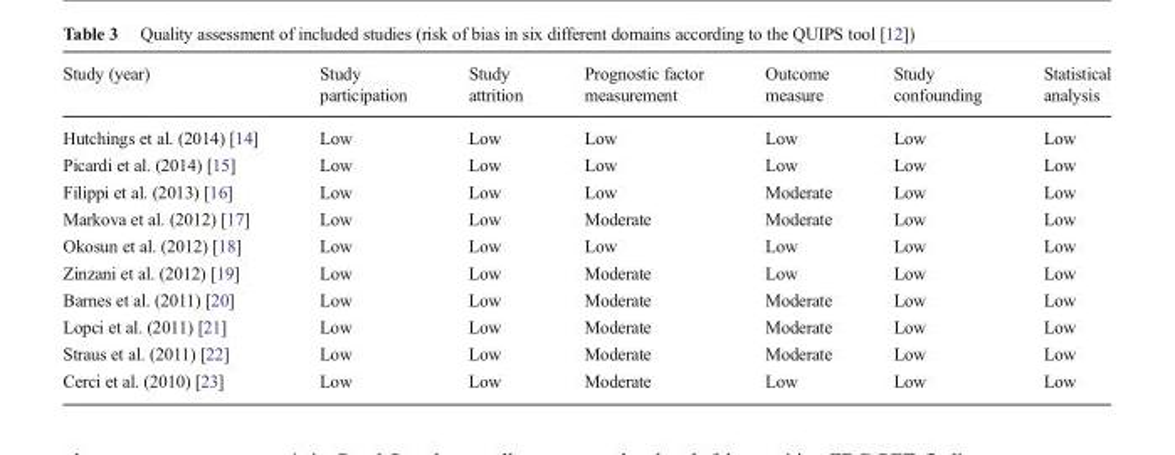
<table><thead><tr><td>Study (year)</td><td>Study participation</td><td>Study attrition</td><td>Prognostic factor measurement</td><td>Outcome measure</td><td>Study confounding</td><td>Statistical analysis</td></tr></thead><tbody><tr><td>Hutchings et al. (2014) [14]</td><td>Low</td><td>Low</td><td>Low</td><td>Low</td><td>Low</td><td>Low</td></tr><tr><td>Picardi et al. (2014) [15]</td><td>Low</td><td>Low</td><td>Low</td><td>Low</td><td>Low</td><td>Low</td></tr><tr><td>Filippi et al. (2013) [16]</td><td>Low</td><td>Low</td><td>Low</td><td>Moderate</td><td>Low</td><td>Low</td></tr><tr><td>Markova et al. (2012) [17]</td><td>Low</td><td>Low</td><td>Moderate</td><td>Moderate</td><td>Low</td><td>Low</td></tr><tr><td>Okosun et al. (2012) [18]</td><td>Low</td><td>Low</td><td>Low</td><td>Low</td><td>Low</td><td>Low</td></tr><tr><td>Zinzani et al. (2012) [19]</td><td>Low</td><td>Low</td><td>Moderate</td><td>Low</td><td>Low</td><td>Low</td></tr><tr><td>Barnes et al. (2011) [20]</td><td>Low</td><td>Low</td><td>Moderate</td><td>Moderate</td><td>Low</td><td>Low</td></tr><tr><td>Lopci et al. (2011) [21]</td><td>Low</td><td>Low</td><td>Moderate</td><td>Moderate</td><td>Low</td><td>Low</td></tr><tr><td>Straus et al. (2011) [22]</td><td>Low</td><td>Low</td><td>Moderate</td><td>Moderate</td><td>Low</td><td>Low</td></tr><tr><td>Cerci et al. (2010) [23]</td><td>Low</td><td>Low</td><td>Moderate</td><td>Low</td><td>Low</td><td>Low</td></tr></tbody></table>